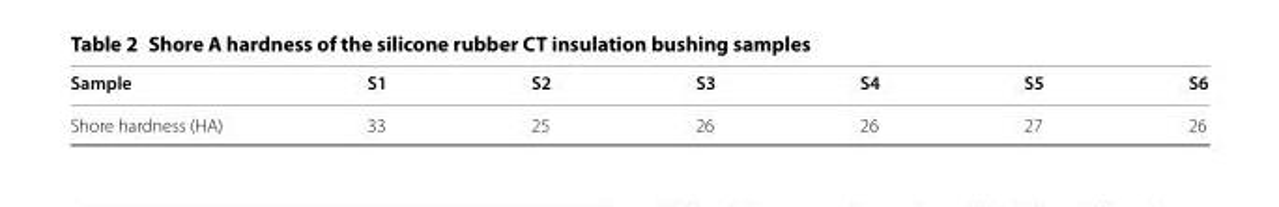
<table><thead><tr><td>Sample</td><td>S1</td><td>S2</td><td>S3</td><td>S4</td><td>S5</td><td>S6</td></tr></thead><tbody><tr><td>Shore hardness (HA)</td><td>33</td><td>25</td><td>26</td><td>26</td><td>27</td><td>26</td></tr></tbody></table>